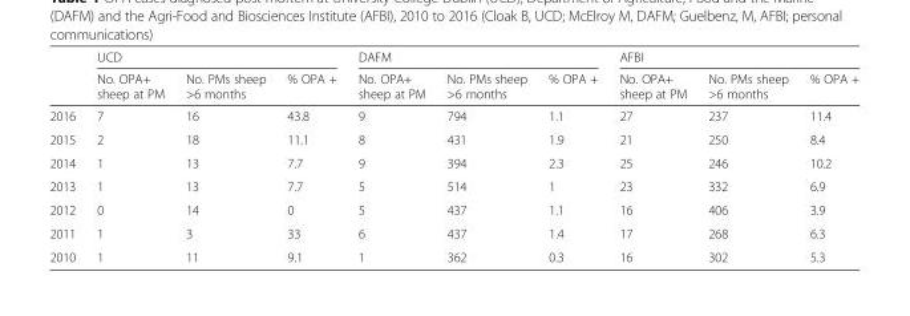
<table><thead><tr><td rowspan="2"></td><td colspan="3">UCD</td><td colspan="3">DAFM</td><td colspan="3">AFBI</td></tr><tr><td>No. OPA+ sheep at PM</td><td>No. PMs sheep &gt;6 months</td><td>% OPA +</td><td>No. OPA+ sheep at PM</td><td>No. PMs sheep &gt;6 months</td><td>% OPA +</td><td>No. OPA+ sheep at PM</td><td>No. PMs sheep &gt;6 months</td><td>% OPA +</td></tr></thead><tbody><tr><td>2016</td><td>7</td><td>16</td><td>43.8</td><td>9</td><td>794</td><td>1.1</td><td>27</td><td>237</td><td>11.4</td></tr><tr><td>2015</td><td>2</td><td>18</td><td>11.1</td><td>8</td><td>431</td><td>1.9</td><td>21</td><td>250</td><td>8.4</td></tr><tr><td>2014</td><td>1</td><td>13</td><td>7.7</td><td>9</td><td>394</td><td>2.3</td><td>25</td><td>246</td><td>10.2</td></tr><tr><td>2013</td><td>1</td><td>13</td><td>7.7</td><td>5</td><td>514</td><td>1</td><td>23</td><td>332</td><td>6.9</td></tr><tr><td>2012</td><td>0</td><td>14</td><td>0</td><td>5</td><td>437</td><td>1.1</td><td>16</td><td>406</td><td>3.9</td></tr><tr><td>2011</td><td>1</td><td>3</td><td>33</td><td>6</td><td>437</td><td>1.4</td><td>17</td><td>268</td><td>6.3</td></tr><tr><td>2010</td><td>1</td><td>11</td><td>9.1</td><td>1</td><td>362</td><td>0.3</td><td>16</td><td>302</td><td>5.3</td></tr></tbody></table>